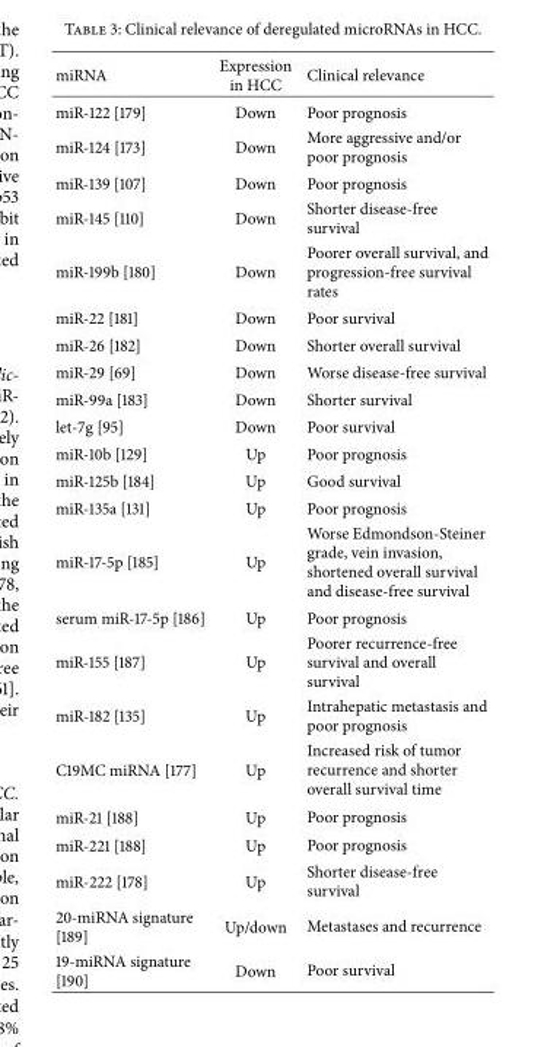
<table><thead><tr><td>miRNA</td><td>Expression in HCC</td><td>Clinical relevance</td></tr></thead><tbody><tr><td>miR-122 [179]</td><td>Down</td><td>Poor prognosis</td></tr><tr><td>miR-124 [173]</td><td>Down</td><td>More aggressive and/or poor prognosis</td></tr><tr><td>miR-139 [107]</td><td>Down</td><td>Poor prognosis</td></tr><tr><td>miR-145 [110]</td><td>Down</td><td>Shorter disease-free survival</td></tr><tr><td>miR-199b [180]</td><td>Down</td><td>Poorer overall survival, and progression-free survival rates</td></tr><tr><td>miR-22 [181]</td><td>Down</td><td>Poor survival</td></tr><tr><td>miR-26 [182]</td><td>Down</td><td>Shorter overall survival</td></tr><tr><td>miR-29 [69]</td><td>Down</td><td>Worse disease-free survival</td></tr><tr><td>miR-99a [183]</td><td>Down</td><td>Shorter survival</td></tr><tr><td>let-7g [95]</td><td>Down</td><td>Poor survival</td></tr><tr><td>miR-10b [129]</td><td>Up</td><td>Poor prognosis</td></tr><tr><td>miR-125b [184]</td><td>Up</td><td>Good survival</td></tr><tr><td>miR-135a [131]</td><td>Up</td><td>Poor prognosis</td></tr><tr><td>miR-17-5p [185]</td><td>Up</td><td>Worse Edmondson-Steiner grade, vein invasion, shortened overall survival and disease-free survival</td></tr><tr><td>serum miR-17-5p [186]</td><td>Up</td><td>Poor prognosis</td></tr><tr><td>miR-155 [187]</td><td>Up</td><td>Poorer recurrence-free survival and overall survival</td></tr><tr><td>miR-182 [135]</td><td>Up</td><td>Intrahepatic metastasis and poor prognosis</td></tr><tr><td>C19MC miRNA [177]</td><td>Up</td><td>Increased risk of tumor recurrence and shorter overall survival time</td></tr><tr><td>miR-21 [188]</td><td>Up</td><td>Poor prognosis</td></tr><tr><td>miR-221 [188]</td><td>Up</td><td>Poor prognosis</td></tr><tr><td>miR-222 [178]</td><td>Up</td><td>Shorter disease-free survival</td></tr><tr><td>20-miRNA signature [189]</td><td>Up/down</td><td>Metastases and recurrence</td></tr><tr><td>19-miRNA signature [190]</td><td>Down</td><td>Poor survival</td></tr></tbody></table>